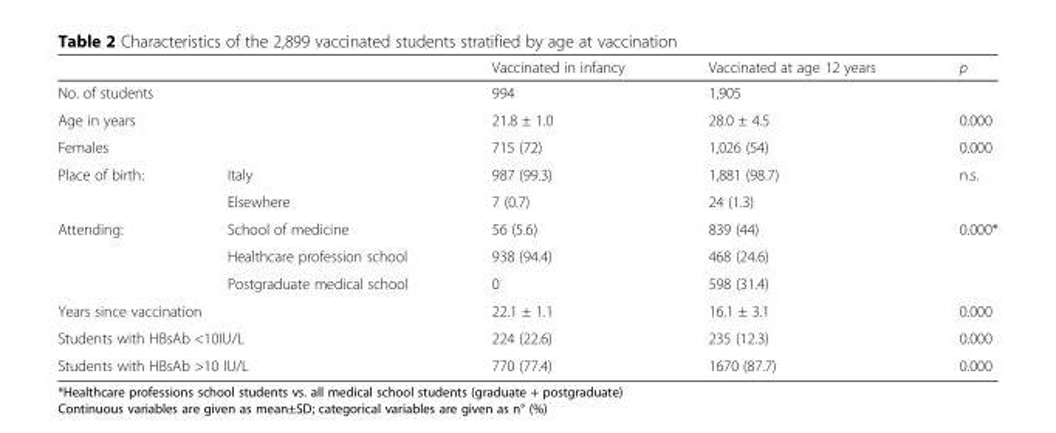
<table><thead><tr><td></td><td></td><td>Vaccinated in infancy</td><td>Vaccinated at age 12 years</td><td>p</td></tr></thead><tbody><tr><td colspan="2">No. of students</td><td>994</td><td>1,905</td><td></td></tr><tr><td colspan="2">Age in years</td><td>21.8 ± 1.0</td><td>28.0 ± 4.5</td><td>0.000</td></tr><tr><td colspan="2">Females</td><td>715 (72)</td><td>1,026 (54)</td><td>0.000</td></tr><tr><td rowspan="2">Place of birth:</td><td>Italy</td><td>987 (99.3)</td><td>1,881 (98.7)</td><td>n.s.</td></tr><tr><td>Elsewhere</td><td>7 (0.7)</td><td>24 (1.3)</td><td></td></tr><tr><td rowspan="3">Attending:</td><td>School of medicine</td><td>56 (5.6)</td><td>839 (44)</td><td rowspan="3">0.000*</td></tr><tr><td>Healthcare profession school</td><td>938 (94.4)</td><td>468 (24.6)</td></tr><tr><td>Postgraduate medical school</td><td>0</td><td>598 (31.4)</td></tr><tr><td colspan="2">Years since vaccination</td><td>22.1 ± 1.1</td><td>16.1 ± 3.1</td><td>0.000</td></tr><tr><td colspan="2">Students with HBsAb &lt;10IU/L</td><td>224 (22.6)</td><td>235 (12.3)</td><td>0.000</td></tr><tr><td colspan="2">Students with HBsAb &gt;10 IU/L</td><td>770 (77.4)</td><td>1670 (87.7)</td><td>0.000</td></tr></tbody></table>